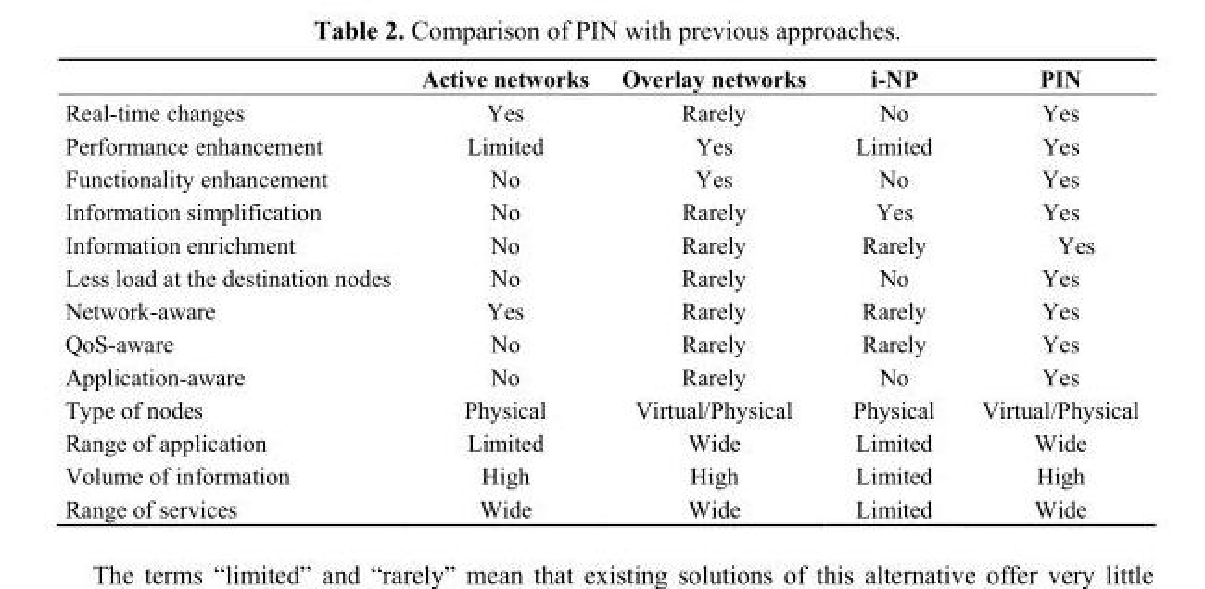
<table><thead><tr><td></td><td>Active networks</td><td>Overlay networks</td><td>i-NP</td><td>PIN</td></tr></thead><tbody><tr><td>Real-time changes</td><td>Yes</td><td>Rarely</td><td>No</td><td>Yes</td></tr><tr><td>Performance enhancement</td><td>Limited</td><td>Yes</td><td>Limited</td><td>Yes</td></tr><tr><td>Functionality enhancement</td><td>No</td><td>Yes</td><td>No</td><td>Yes</td></tr><tr><td>Information simplification</td><td>No</td><td>Rarely</td><td>Yes</td><td>Yes</td></tr><tr><td>Information enrichment</td><td>No</td><td>Rarely</td><td>Rarely</td><td>Yes</td></tr><tr><td>Less load at the destination nodes</td><td>No</td><td>Rarely</td><td>No</td><td>Yes</td></tr><tr><td>Network-aware</td><td>Yes</td><td>Rarely</td><td>Rarely</td><td>Yes</td></tr><tr><td>QoS-aware</td><td>No</td><td>Rarely</td><td>Rarely</td><td>Yes</td></tr><tr><td>Application-aware</td><td>No</td><td>Rarely</td><td>No</td><td>Yes</td></tr><tr><td>Type of nodes</td><td>Physical</td><td>Virtual/Physical</td><td>Physical</td><td>Virtual/Physical</td></tr><tr><td>Range of application</td><td>Limited</td><td>Wide</td><td>Limited</td><td>Wide</td></tr><tr><td>Volume of information</td><td>High</td><td>High</td><td>Limited</td><td>High</td></tr><tr><td>Range of services</td><td>Wide</td><td>Wide</td><td>Limited</td><td>Wide</td></tr></tbody></table>